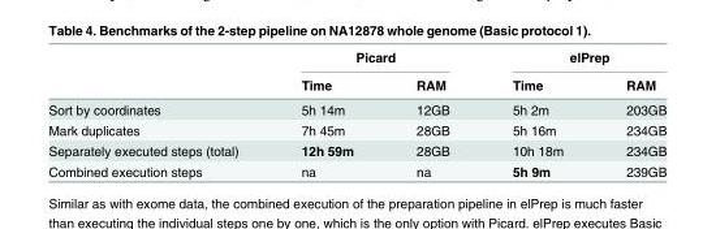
<table><thead><tr><td rowspan="2"></td><td colspan="2">Picard</td><td colspan="2">elPrep</td></tr><tr><td>Time</td><td>RAM</td><td>Time</td><td>RAM</td></tr></thead><tbody><tr><td>Sort by coordinates</td><td>5h 14m</td><td>12GB</td><td>5h 2m</td><td>203GB</td></tr><tr><td>Mark duplicates</td><td>7h 45m</td><td>28GB</td><td>5h 16m</td><td>234GB</td></tr><tr><td>Separately executed steps (total)</td><td>12h 59m</td><td>28GB</td><td>10h 18m</td><td>234GB</td></tr><tr><td>Combined execution steps</td><td>na</td><td>na</td><td>5h 9m</td><td>239GB</td></tr></tbody></table>